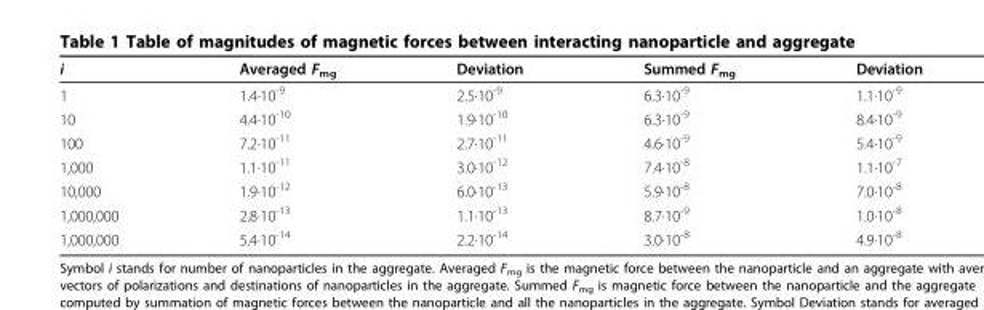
<table><thead><tr><td>i</td><td>Averaged F<sub>mg</sub></td><td>Deviation</td><td>Summed F<sub>mg</sub></td><td>Deviation</td></tr></thead><tbody><tr><td>1</td><td>1.4·10<sup>-9</sup></td><td>2.5·10<sup>-9</sup></td><td>6.3·10<sup>-9</sup></td><td>1.1·10<sup>-9</sup></td></tr><tr><td>10</td><td>4.4·10<sup>-10</sup></td><td>1.9·10<sup>-10</sup></td><td>6.3·10<sup>-9</sup></td><td>8.4·10<sup>-9</sup></td></tr><tr><td>100</td><td>7.2·10<sup>-11</sup></td><td>2.7·10<sup>-11</sup></td><td>4.6·10<sup>-9</sup></td><td>5.4·10<sup>-9</sup></td></tr><tr><td>1,000</td><td>1.1·10<sup>-11</sup></td><td>3.0·10<sup>-12</sup></td><td>7.4·10<sup>-8</sup></td><td>1.1·10<sup>-7</sup></td></tr><tr><td>10,000</td><td>1.9·10<sup>-12</sup></td><td>6.0·10<sup>-13</sup></td><td>5.9·10<sup>-8</sup></td><td>7.0·10<sup>-8</sup></td></tr><tr><td>1,000,000</td><td>2.8·10<sup>-13</sup></td><td>1.1·10<sup>-13</sup></td><td>8.7·10<sup>-9</sup></td><td>1.0·10<sup>-8</sup></td></tr><tr><td>1,000,000</td><td>5.4·10<sup>-14</sup></td><td>2.2·10<sup>-14</sup></td><td>3.0·10<sup>-8</sup></td><td>4.9·10<sup>-8</sup></td></tr></tbody></table>